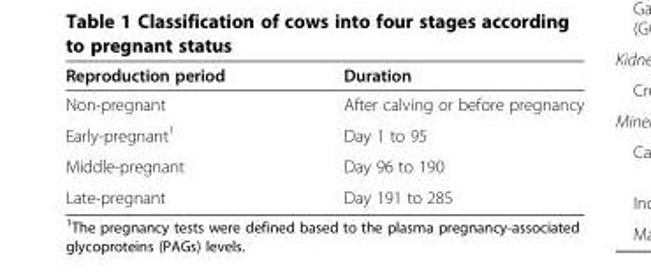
<table><thead><tr><td>Reproduction period</td><td>Duration</td></tr></thead><tbody><tr><td>Non-pregnant</td><td>After calving or before pregnancy</td></tr><tr><td>Early-pregnant<sup>1</sup></td><td>Day 1 to 95</td></tr><tr><td>Middle-pregnant</td><td>Day 96 to 190</td></tr><tr><td>Late-pregnant</td><td>Day 191 to 285</td></tr></tbody></table>